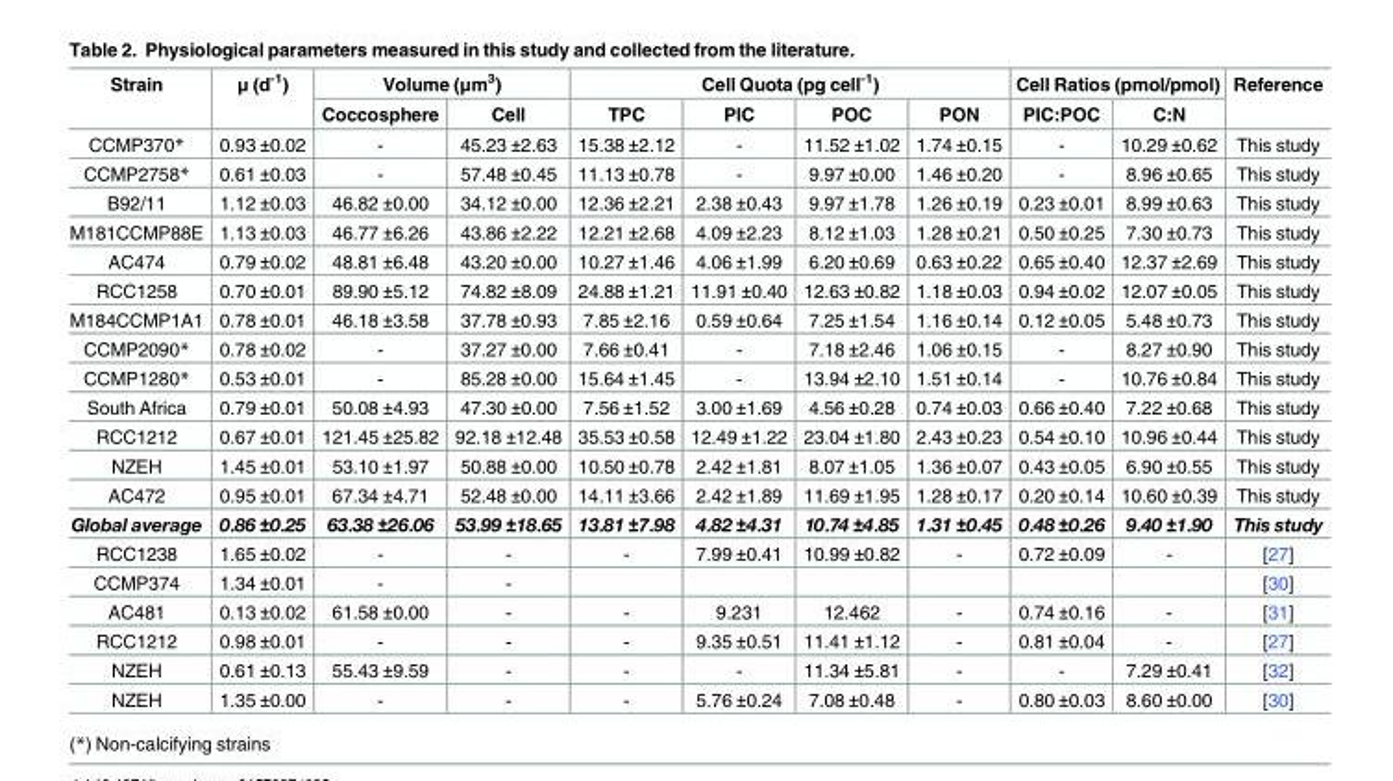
<table><thead><tr><td rowspan="2">Strain</td><td rowspan="2">μ (d<sup>-1</sup>)</td><td colspan="2">Volume (μm<sup>3</sup>)</td><td colspan="4">Cell Quota (pg cell<sup>-1</sup>)</td><td colspan="2">Cell Ratios (pmol/pmol)</td><td rowspan="2">Reference</td></tr><tr><td>Coccosphere</td><td>Cell</td><td>TPC</td><td>PIC</td><td>POC</td><td>PON</td><td>PIC:POC</td><td>C:N</td></tr></thead><tbody><tr><td>CCMP370*</td><td>0.93 ±0.02</td><td>-</td><td>45.23 ±2.63</td><td>15.38 ±2.12</td><td>-</td><td>11.52 ±1.02</td><td>1.74 ±0.15</td><td>-</td><td>10.29 ±0.62</td><td>This study</td></tr><tr><td>CCMP2758*</td><td>0.61 ±0.03</td><td>-</td><td>57.48 ±0.45</td><td>11.13 ±0.78</td><td>-</td><td>9.97 ±0.00</td><td>1.46 ±0.20</td><td>-</td><td>8.96 ±0.65</td><td>This study</td></tr><tr><td>B92/11</td><td>1.12 ±0.03</td><td>46.82 ±0.00</td><td>34.12 ±0.00</td><td>12.36 ±2.21</td><td>2.38 ±0.43</td><td>9.97 ±1.78</td><td>1.26 ±0.19</td><td>0.23 ±0.01</td><td>8.99 ±0.63</td><td>This study</td></tr><tr><td>M181CCMP88E</td><td>1.13 ±0.03</td><td>46.77 ±6.26</td><td>43.86 ±2.22</td><td>12.21 ±2.68</td><td>4.09 ±2.23</td><td>8.12 ±1.03</td><td>1.28 ±0.21</td><td>0.50 ±0.25</td><td>7.30 ±0.73</td><td>This study</td></tr><tr><td>AC474</td><td>0.79 ±0.02</td><td>48.81 ±6.48</td><td>43.20 ±0.00</td><td>10.27 ±1.46</td><td>4.06 ±1.99</td><td>6.20 ±0.69</td><td>0.63 ±0.22</td><td>0.65 ±0.40</td><td>12.37 ±2.69</td><td>This study</td></tr><tr><td>RCC1258</td><td>0.70 ±0.01</td><td>89.90 ±5.12</td><td>74.82 ±8.09</td><td>24.88 ±1.21</td><td>11.91 ±0.40</td><td>12.63 ±0.82</td><td>1.18 ±0.03</td><td>0.94 ±0.02</td><td>12.07 ±0.05</td><td>This study</td></tr><tr><td>M184CCMP1A1</td><td>0.78 ±0.01</td><td>46.18 ±3.58</td><td>37.78 ±0.93</td><td>7.85 ±2.16</td><td>0.59 ±0.64</td><td>7.25 ±1.54</td><td>1.16 ±0.14</td><td>0.12 ±0.05</td><td>5.48 ±0.73</td><td>This study</td></tr><tr><td>CCMP2090*</td><td>0.78 ±0.02</td><td>-</td><td>37.27 ±0.00</td><td>7.66 ±0.41</td><td>-</td><td>7.18 ±2.46</td><td>1.06 ±0.15</td><td>-</td><td>8.27 ±0.90</td><td>This study</td></tr><tr><td>CCMP1280*</td><td>0.53 ±0.01</td><td>-</td><td>85.28 ±0.00</td><td>15.64 ±1.45</td><td>-</td><td>13.94 ±2.10</td><td>1.51 ±0.14</td><td>-</td><td>10.76 ±0.84</td><td>This study</td></tr><tr><td>South Africa</td><td>0.79 ±0.01</td><td>50.08 ±4.93</td><td>47.30 ±0.00</td><td>7.56 ±1.52</td><td>3.00 ±1.69</td><td>4.56 ±0.28</td><td>0.74 ±0.03</td><td>0.66 ±0.40</td><td>7.22 ±0.68</td><td>This study</td></tr><tr><td>RCC1212</td><td>0.67 ±0.01</td><td>121.45 ±25.82</td><td>92.18 ±12.48</td><td>35.53 ±0.58</td><td>12.49 ±1.22</td><td>23.04 ±1.80</td><td>2.43 ±0.23</td><td>0.54 ±0.10</td><td>10.96 ±0.44</td><td>This study</td></tr><tr><td>NZEH</td><td>1.45 ±0.01</td><td>53.10 ±1.97</td><td>50.88 ±0.00</td><td>10.50 ±0.78</td><td>2.42 ±1.81</td><td>8.07 ±1.05</td><td>1.36 ±0.07</td><td>0.43 ±0.05</td><td>6.90 ±0.55</td><td>This study</td></tr><tr><td>AC472</td><td>0.95 ±0.01</td><td>67.34 ±4.71</td><td>52.48 ±0.00</td><td>14.11 ±3.66</td><td>2.42 ±1.89</td><td>11.69 ±1.95</td><td>1.28 ±0.17</td><td>0.20 ±0.14</td><td>10.60 ±0.39</td><td>This study</td></tr><tr><td>Global average</td><td>0.86 ±0.25</td><td>63.38 ±26.06</td><td>53.99 ±18.65</td><td>13.81 ±7.98</td><td>4.82 ±4.31</td><td>10.74 ±4.85</td><td>1.31 ±0.45</td><td>0.48 ±0.26</td><td>9.40 ±1.90</td><td>This study</td></tr><tr><td>RCC1238</td><td>1.65 ±0.02</td><td>-</td><td>-</td><td>-</td><td>7.99 ±0.41</td><td>10.99 ±0.82</td><td>-</td><td>0.72 ±0.09</td><td>-</td><td>[27]</td></tr><tr><td>CCMP374</td><td>1.34 ±0.01</td><td>-</td><td>-</td><td></td><td></td><td></td><td></td><td></td><td></td><td>[30]</td></tr><tr><td>AC481</td><td>0.13 ±0.02</td><td>61.58 ±0.00</td><td>-</td><td>-</td><td>9.231</td><td>12.462</td><td>-</td><td>0.74 ±0.16</td><td>-</td><td>[31]</td></tr><tr><td>RCC1212</td><td>0.98 ±0.01</td><td>-</td><td>-</td><td>-</td><td>9.35 ±0.51</td><td>11.41 ±1.12</td><td>-</td><td>0.81 ±0.04</td><td>-</td><td>[27]</td></tr><tr><td>NZEH</td><td>0.61 ±0.13</td><td>55.43 ±9.59</td><td>-</td><td>-</td><td>-</td><td>11.34 ±5.81</td><td>-</td><td>-</td><td>7.29 ±0.41</td><td>[32]</td></tr><tr><td>NZEH</td><td>1.35 ±0.00</td><td>-</td><td>-</td><td>-</td><td>5.76 ±0.24</td><td>7.08 ±0.48</td><td>-</td><td>0.80 ±0.03</td><td>8.60 ±0.00</td><td>[30]</td></tr></tbody></table>